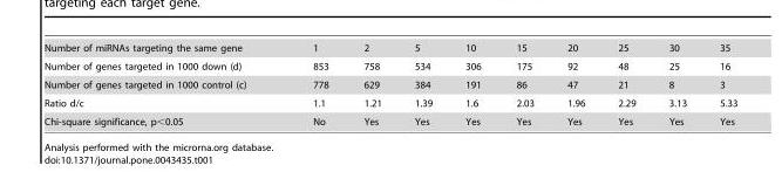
<table><tbody><tr><td>Number of miRNAs targeting the same gene</td><td>1</td><td>2</td><td>5</td><td>10</td><td>15</td><td>20</td><td>25</td><td>30</td><td>35</td></tr><tr><td>Number of genes targeted in 1000 down (d)</td><td>853</td><td>758</td><td>534</td><td>306</td><td>175</td><td>92</td><td>48</td><td>25</td><td>16</td></tr><tr><td>Number of genes targeted in 1000 control (c)</td><td>778</td><td>629</td><td>384</td><td>191</td><td>86</td><td>47</td><td>21</td><td>8</td><td>3</td></tr><tr><td>Ratio d/c</td><td>1.1</td><td>1.21</td><td>1.39</td><td>1.6</td><td>2.03</td><td>1.96</td><td>2.29</td><td>3.13</td><td>5.33</td></tr><tr><td>Chi-square significance, p&lt;0.05</td><td>No</td><td>Yes</td><td>Yes</td><td>Yes</td><td>Yes</td><td>Yes</td><td>Yes</td><td>Yes</td><td>Yes</td></tr></tbody></table>